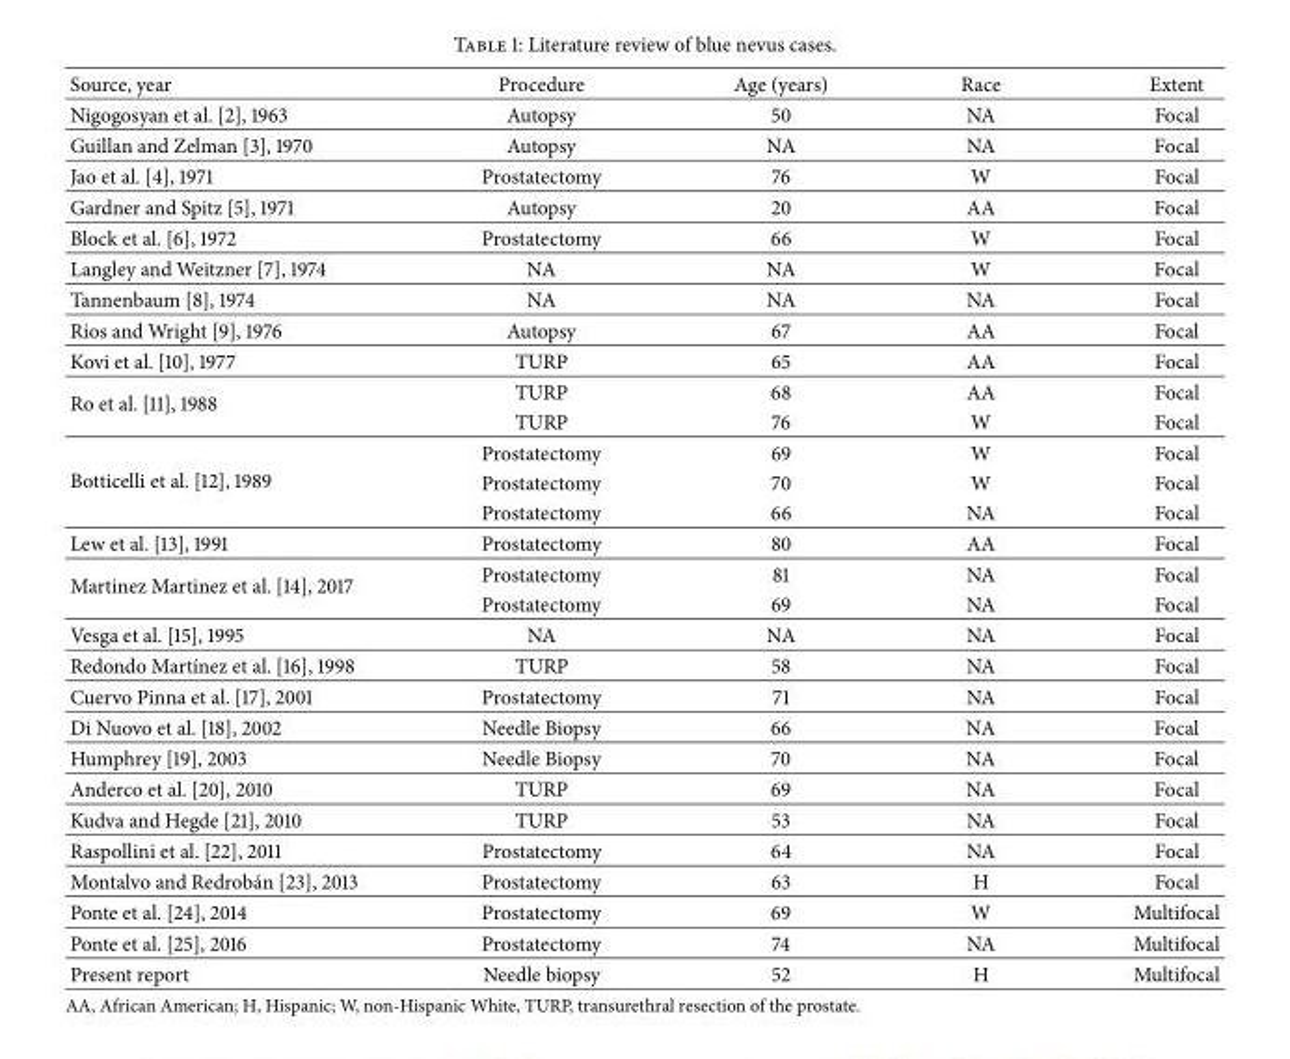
<table><thead><tr><td>Source, year</td><td>Procedure</td><td>Age (years)</td><td>Race</td><td>Extent</td></tr></thead><tbody><tr><td>Nigogosyan et al. [2], 1963</td><td>Autopsy</td><td>50</td><td>NA</td><td>Focal</td></tr><tr><td>Guillan and Zelman [3], 1970</td><td>Autopsy</td><td>NA</td><td>NA</td><td>Focal</td></tr><tr><td>Jao et al. [4], 1971</td><td>Prostatectomy</td><td>76</td><td>W</td><td>Focal</td></tr><tr><td>Gardner and Spitz [5], 1971</td><td>Autopsy</td><td>20</td><td>AA</td><td>Focal</td></tr><tr><td>Block et al. [6], 1972</td><td>Prostatectomy</td><td>66</td><td>W</td><td>Focal</td></tr><tr><td>Langley and Weitzner [7], 1974</td><td>NA</td><td>NA</td><td>W</td><td>Focal</td></tr><tr><td>Tannenbaum [8], 1974</td><td>NA</td><td>NA</td><td>NA</td><td>Focal</td></tr><tr><td>Rios and Wright [9], 1976</td><td>Autopsy</td><td>67</td><td>AA</td><td>Focal</td></tr><tr><td>Kovi et al. [10], 1977</td><td>TURP</td><td>65</td><td>AA</td><td>Focal</td></tr><tr><td rowspan="2">Ro et al. [11], 1988</td><td>TURP</td><td>68</td><td>AA</td><td>Focal</td></tr><tr><td>TURP</td><td>76</td><td>W</td><td>Focal</td></tr><tr><td rowspan="3">Botticelli et al. [12], 1989</td><td>Prostatectomy</td><td>69</td><td>W</td><td>Focal</td></tr><tr><td>Prostatectomy</td><td>70</td><td>W</td><td>Focal</td></tr><tr><td>Prostatectomy</td><td>66</td><td>NA</td><td>Focal</td></tr><tr><td>Lew et al. [13], 1991</td><td>Prostatectomy</td><td>80</td><td>AA</td><td>Focal</td></tr><tr><td rowspan="2">Martinez Martinez et al. [14], 2017</td><td>Prostatectomy</td><td>81</td><td>NA</td><td>Focal</td></tr><tr><td>Prostatectomy</td><td>69</td><td>NA</td><td>Focal</td></tr><tr><td>Vesga et al. [15], 1995</td><td>NA</td><td>NA</td><td>NA</td><td>Focal</td></tr><tr><td>Redondo Mart´ınez et al. [16], 1998</td><td>TURP</td><td>58</td><td>NA</td><td>Focal</td></tr><tr><td>Cuervo Pinna et al. [17], 2001</td><td>Prostatectomy</td><td>71</td><td>NA</td><td>Focal</td></tr><tr><td>Di Nuovo et al. [18], 2002</td><td>Needle Biopsy</td><td>66</td><td>NA</td><td>Focal</td></tr><tr><td>Humphrey [19], 2003</td><td>Needle Biopsy</td><td>70</td><td>NA</td><td>Focal</td></tr><tr><td>Anderco et al. [20], 2010</td><td>TURP</td><td>69</td><td>NA</td><td>Focal</td></tr><tr><td>Kudva and Hegde [21], 2010</td><td>TURP</td><td>53</td><td>NA</td><td>Focal</td></tr><tr><td>Raspollini et al. [22], 2011</td><td>Prostatectomy</td><td>64</td><td>NA</td><td>Focal</td></tr><tr><td>Montalvo and Redrob´an [23], 2013</td><td>Prostatectomy</td><td>63</td><td>H</td><td>Focal</td></tr><tr><td>Ponte et al. [24], 2014</td><td>Prostatectomy</td><td>69</td><td>W</td><td>Multifocal</td></tr><tr><td>Ponte et al. [25], 2016</td><td>Prostatectomy</td><td>74</td><td>NA</td><td>Multifocal</td></tr><tr><td>Present report</td><td>Needle biopsy</td><td>52</td><td>H</td><td>Multifocal</td></tr></tbody></table>